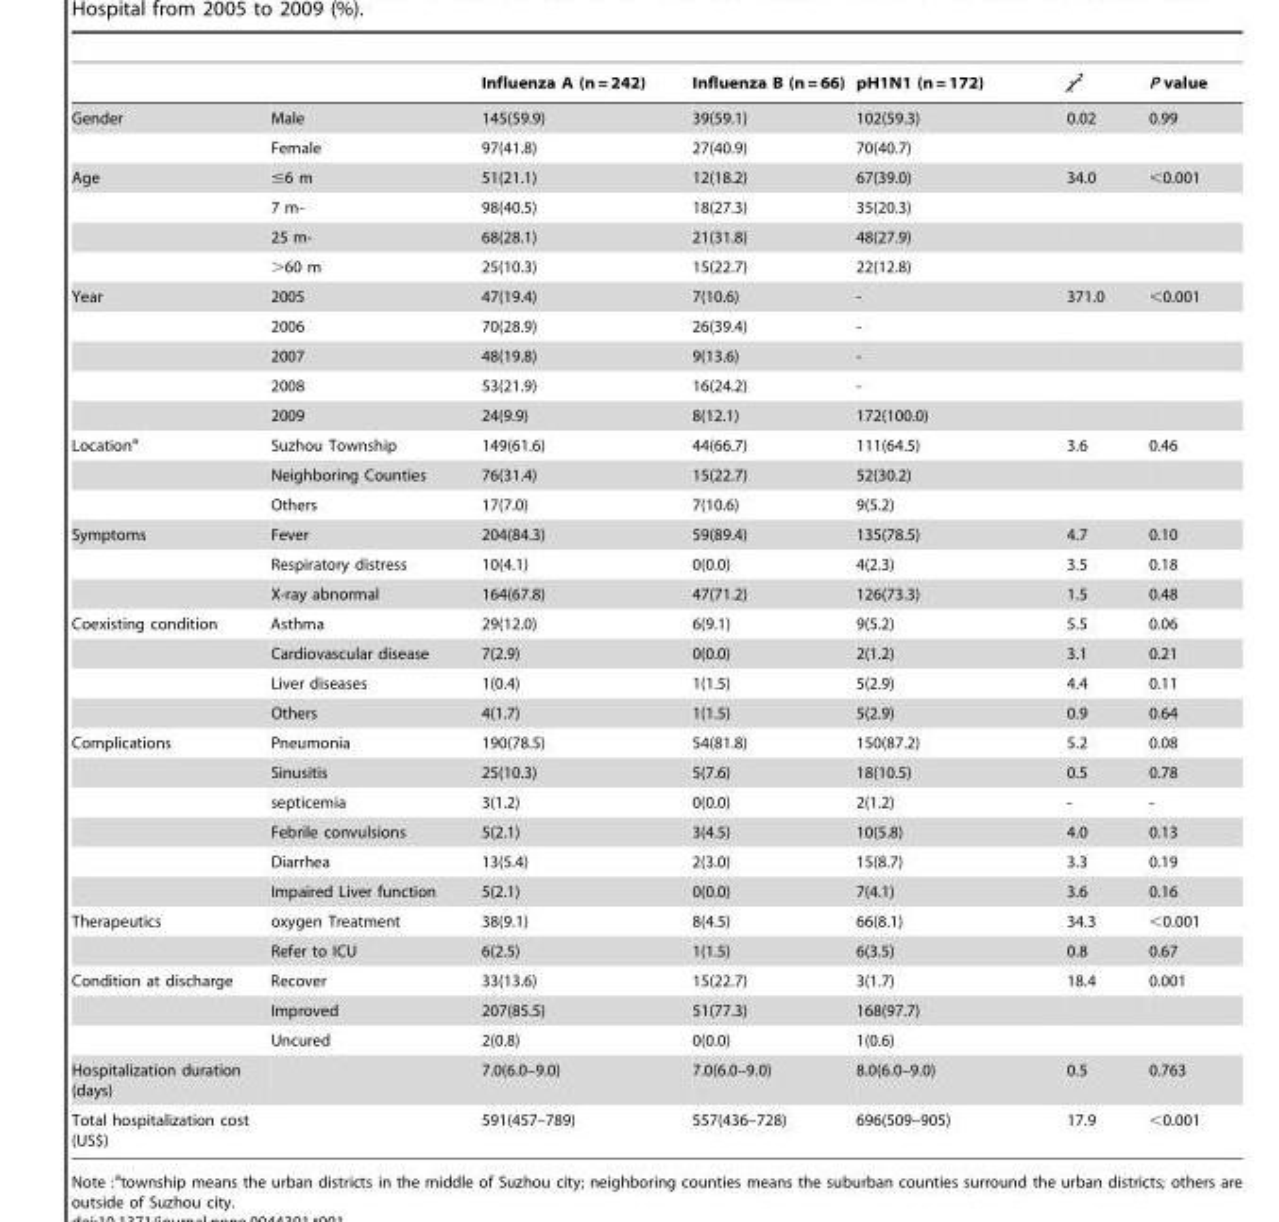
<table><thead><tr><td></td><td></td><td>Influenza A (n = 242)</td><td>Influenza B (n = 66)</td><td>pH1N1 (n = 172)</td><td>χ<sup>2</sup></td><td>P value</td></tr></thead><tbody><tr><td rowspan="2">Gender</td><td>Male</td><td>145(59.9)</td><td>39(59.1)</td><td>102(59.3)</td><td>0.02</td><td>0.99</td></tr><tr><td>Female</td><td>97(41.8)</td><td>27(40.9)</td><td>70(40.7)</td><td></td><td></td></tr><tr><td rowspan="4">Age</td><td>≤6 m</td><td>51(21.1)</td><td>12(18.2)</td><td>67(39.0)</td><td>34.0</td><td>&lt;0.001</td></tr><tr><td>7 m-</td><td>98(40.5)</td><td>18(27.3)</td><td>35(20.3)</td><td></td><td></td></tr><tr><td>25 m-</td><td>68(28.1)</td><td>21(31.8)</td><td>48(27.9)</td><td></td><td></td></tr><tr><td>&gt;60 m</td><td>25(10.3)</td><td>15(22.7)</td><td>22(12.8)</td><td></td><td></td></tr><tr><td rowspan="5">Year</td><td>2005</td><td>47(19.4)</td><td>7(10.6)</td><td>-</td><td>371.0</td><td>&lt;0.001</td></tr><tr><td>2006</td><td>70(28.9)</td><td>26(39.4)</td><td>-</td><td></td><td></td></tr><tr><td>2007</td><td>48(19.8)</td><td>9(13.6)</td><td>-</td><td></td><td></td></tr><tr><td>2008</td><td>53(21.9)</td><td>16(24.2)</td><td>-</td><td></td><td></td></tr><tr><td>2009</td><td>24(9.9)</td><td>8(12.1)</td><td>172(100.0)</td><td></td><td></td></tr><tr><td rowspan="3">Location<sup>a</sup></td><td>Suzhou Township</td><td>149(61.6)</td><td>44(66.7)</td><td>111(64.5)</td><td>3.6</td><td>0.46</td></tr><tr><td>Neighboring Counties</td><td>76(31.4)</td><td>15(22.7)</td><td>52(30.2)</td><td></td><td></td></tr><tr><td>Others</td><td>17(7.0)</td><td>7(10.6)</td><td>9(5.2)</td><td></td><td></td></tr><tr><td rowspan="3">Symptoms</td><td>Fever</td><td>204(84.3)</td><td>59(89.4)</td><td>135(78.5)</td><td>4.7</td><td>0.10</td></tr><tr><td>Respiratory distress</td><td>10(4.1)</td><td>0(0.0)</td><td>4(2.3)</td><td>3.5</td><td>0.18</td></tr><tr><td>X-ray abnormal</td><td>164(67.8)</td><td>47(71.2)</td><td>126(73.3)</td><td>1.5</td><td>0.48</td></tr><tr><td rowspan="4">Coexisting condition</td><td>Asthma</td><td>29(12.0)</td><td>6(9.1)</td><td>9(5.2)</td><td>5.5</td><td>0.06</td></tr><tr><td>Cardiovascular disease</td><td>7(2.9)</td><td>0(0.0)</td><td>2(1.2)</td><td>3.1</td><td>0.21</td></tr><tr><td>Liver diseases</td><td>1(0.4)</td><td>1(1.5)</td><td>5(2.9)</td><td>4.4</td><td>0.11</td></tr><tr><td>Others</td><td>4(1.7)</td><td>1(1.5)</td><td>5(2.9)</td><td>0.9</td><td>0.64</td></tr><tr><td rowspan="6">Complications</td><td>Pneumonia</td><td>190(78.5)</td><td>54(81.8)</td><td>150(87.2)</td><td>5.2</td><td>0.08</td></tr><tr><td>Sinusitis</td><td>25(10.3)</td><td>5(7.6)</td><td>18(10.5)</td><td>0.5</td><td>0.78</td></tr><tr><td>septicemia</td><td>3(1.2)</td><td>0(0.0)</td><td>2(1.2)</td><td>-</td><td>-</td></tr><tr><td>Febrile convulsions</td><td>5(2.1)</td><td>3(4.5)</td><td>10(5.8)</td><td>4.0</td><td>0.13</td></tr><tr><td>Diarrhea</td><td>13(5.4)</td><td>2(3.0)</td><td>15(8.7)</td><td>3.3</td><td>0.19</td></tr><tr><td>Impaired Liver function</td><td>5(2.1)</td><td>0(0.0)</td><td>7(4.1)</td><td>3.6</td><td>0.16</td></tr><tr><td rowspan="2">Therapeutics</td><td>oxygen Treatment</td><td>38(9.1)</td><td>8(4.5)</td><td>66(8.1)</td><td>34.3</td><td>&lt;0.001</td></tr><tr><td>Refer to ICU</td><td>6(2.5)</td><td>1(1.5)</td><td>6(3.5)</td><td>0.8</td><td>0.67</td></tr><tr><td rowspan="3">Condition at discharge</td><td>Recover</td><td>33(13.6)</td><td>15(22.7)</td><td>3(1.7)</td><td>18.4</td><td>0.001</td></tr><tr><td>Improved</td><td>207(85.5)</td><td>51(77.3)</td><td>168(97.7)</td><td></td><td></td></tr><tr><td>Uncured</td><td>2(0.8)</td><td>0(0.0)</td><td>1(0.6)</td><td></td><td></td></tr><tr><td>Hospitalization duration (days)</td><td></td><td>7.0(6.0–9.0)</td><td>7.0(6.0–9.0)</td><td>8.0(6.0–9.0)</td><td>0.5</td><td>0.763</td></tr><tr><td>Total hospitalization cost (US$)</td><td></td><td>591(457–789)</td><td>557(436–728)</td><td>696(509–905)</td><td>17.9</td><td>&lt;0.001</td></tr></tbody></table>